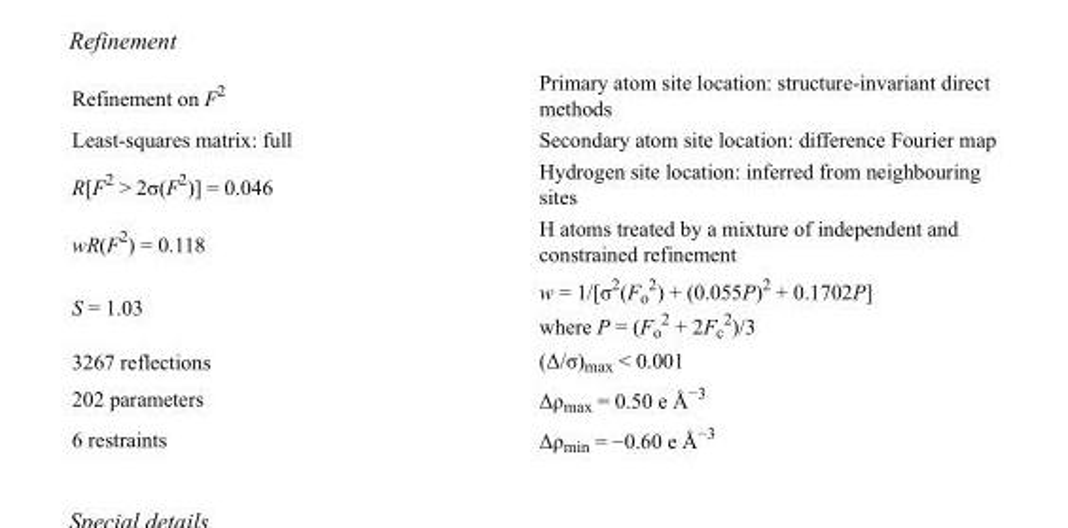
<table><tbody><tr><td>Refinement on F<sup>2</sup></td><td>Primary atom site location: structure-invariant direct methods</td></tr><tr><td>Least-squares matrix: full</td><td>Secondary atom site location: difference Fourier map</td></tr><tr><td>R[F<sup>2</sup> &gt; 2σ(F<sup>2</sup>)] = 0.046</td><td>Hydrogen site location: inferred from neighbouring sites</td></tr><tr><td>wR(F<sup>2</sup>) = 0.118</td><td>H atoms treated by a mixture of independent and constrained refinement</td></tr><tr><td>S = 1.03</td><td>w = 1/[σ<sup>2</sup>(F<sub>o</sub> <sup>2</sup>) + (0.055P)<sup>2</sup> + 0.1702P] where P = (F<sub>o</sub> <sup>2</sup> + 2F<sub>c</sub> <sup>2</sup>)/3</td></tr><tr><td>3267 reflections</td><td>(Δ/σ)<sub>max</sub> &lt; 0.001</td></tr><tr><td>202 parameters</td><td>Δρ<sub>max</sub> = 0.50 e Å<sup>−3</sup></td></tr><tr><td>6 restraints</td><td>Δρ<sub>min</sub> = −0.60 e Å<sup>−3</sup></td></tr></tbody></table>